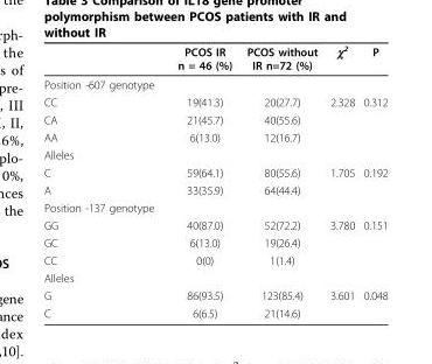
<table><thead><tr><td></td><td>PCOS IR n = 46 (%)</td><td>PCOS without IR n=72 (%)</td><td>χ<sup>2</sup></td><td>P</td></tr></thead><tbody><tr><td colspan="5">Position -607 genotype</td></tr><tr><td>CC</td><td>19(41.3)</td><td>20(27.7)</td><td>2.328</td><td>0.312</td></tr><tr><td>CA</td><td>21(45.7)</td><td>40(55.6)</td><td></td><td></td></tr><tr><td>AA</td><td>6(13.0)</td><td>12(16.7)</td><td></td><td></td></tr><tr><td colspan="5">Alleles</td></tr><tr><td>C</td><td>59(64.1)</td><td>80(55.6)</td><td>1.705</td><td>0.192</td></tr><tr><td>A</td><td>33(35.9)</td><td>64(44.4)</td><td></td><td></td></tr><tr><td colspan="5">Position -137 genotype</td></tr><tr><td>GG</td><td>40(87.0)</td><td>52(72.2)</td><td>3.780</td><td>0.151</td></tr><tr><td>GC</td><td>6(13.0)</td><td>19(26.4)</td><td></td><td></td></tr><tr><td>CC</td><td>0(0)</td><td>1(1.4)</td><td></td><td></td></tr><tr><td colspan="5">Alleles</td></tr><tr><td>G</td><td>86(93.5)</td><td>123(85.4)</td><td>3.601</td><td>0.048</td></tr><tr><td>C</td><td>6(6.5)</td><td>21(14.6)</td><td></td><td></td></tr></tbody></table>